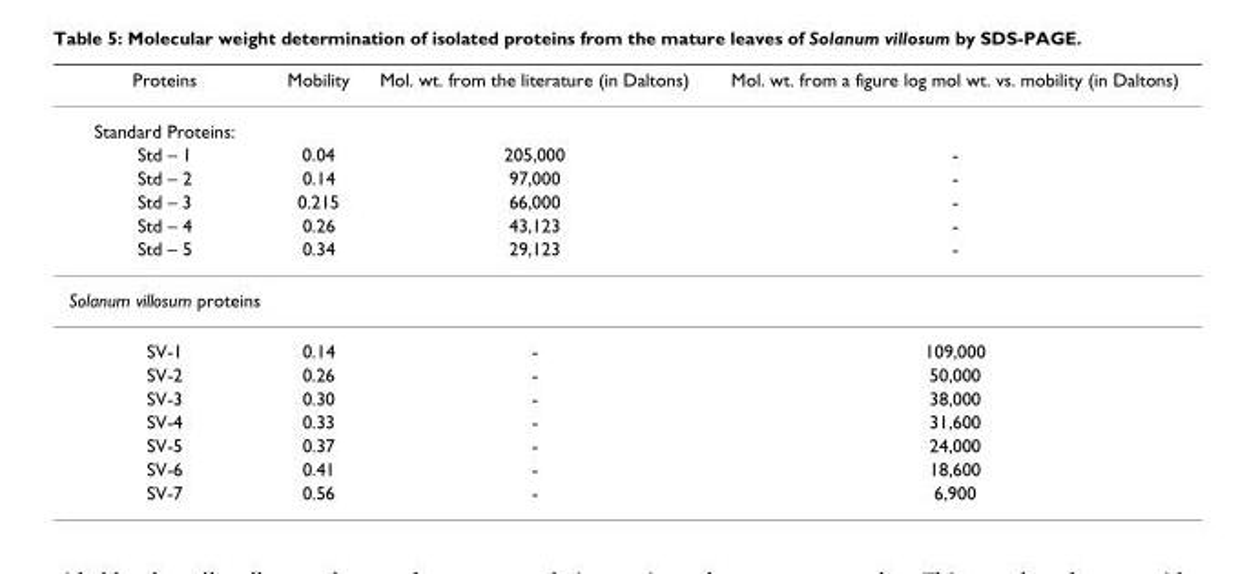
<table><thead><tr><td>Proteins</td><td>Mobility</td><td>Mol. wt. from the literature (in Daltons)</td><td>Mol. wt. from a figure log mol wt. vs. mobility (in Daltons)</td></tr></thead><tbody><tr><td colspan="4">Standard Proteins:</td></tr><tr><td>Std – 1</td><td>0.04</td><td>205,000</td><td>-</td></tr><tr><td>Std – 2</td><td>0.14</td><td>97,000</td><td>-</td></tr><tr><td>Std – 3</td><td>0.215</td><td>66,000</td><td>-</td></tr><tr><td>Std – 4</td><td>0.26</td><td>43,123</td><td>-</td></tr><tr><td>Std – 5</td><td>0.34</td><td>29,123</td><td>-</td></tr><tr><td colspan="4">Solanum villosum proteins</td></tr><tr><td>SV-1</td><td>0.14</td><td>-</td><td>109,000</td></tr><tr><td>SV-2</td><td>0.26</td><td>-</td><td>50,000</td></tr><tr><td>SV-3</td><td>0.30</td><td>-</td><td>38,000</td></tr><tr><td>SV-4</td><td>0.33</td><td>-</td><td>31,600</td></tr><tr><td>SV-5</td><td>0.37</td><td>-</td><td>24,000</td></tr><tr><td>SV-6</td><td>0.41</td><td>-</td><td>18,600</td></tr><tr><td>SV-7</td><td>0.56</td><td>-</td><td>6,900</td></tr></tbody></table>